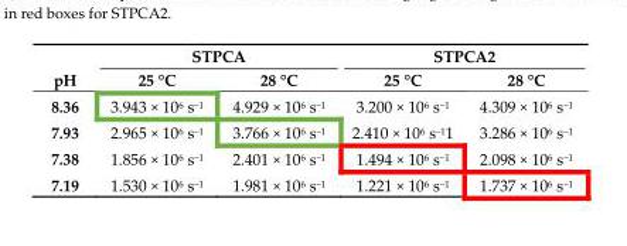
<table><thead><tr><td rowspan="2">pH</td><td colspan="2">STPCA</td><td colspan="2">STPCA2</td></tr><tr><td>25 °C</td><td>28 °C</td><td>25 °C</td><td>28 °C</td></tr></thead><tbody><tr><td>8.36</td><td>3.943 × 10<sup>6</sup> s<sup>−1</sup></td><td>4.929 × 10<sup>6</sup> s<sup>−1</sup></td><td>3.200 × 10<sup>6</sup> s<sup>−1</sup></td><td>4.309 × 10<sup>6</sup> s<sup>−1</sup></td></tr><tr><td>7.93</td><td>2.965 × 10<sup>6</sup> s<sup>−1</sup></td><td>3.766 × 10<sup>6</sup> s<sup>−1</sup></td><td>2.410 × 10<sup>6</sup> s<sup>−1</sup>1</td><td>3.286 × 10<sup>6</sup> s<sup>−1</sup></td></tr><tr><td>7.38</td><td>1.856 × 10<sup>6</sup> s<sup>−1</sup></td><td>2.401 × 10<sup>6</sup> s<sup>−1</sup></td><td>1.494 × 10<sup>6</sup> s<sup>−1</sup></td><td>2.098 × 10<sup>6</sup> s<sup>−1</sup></td></tr><tr><td>7.19</td><td>1.530 × 10<sup>6</sup> s<sup>−1</sup></td><td>1.981 × 10<sup>6</sup> s<sup>−1</sup></td><td>1.221 × 10<sup>6</sup> s<sup>−1</sup></td><td>1.737 × 10<sup>6</sup> s<sup>−1</sup></td></tr></tbody></table>